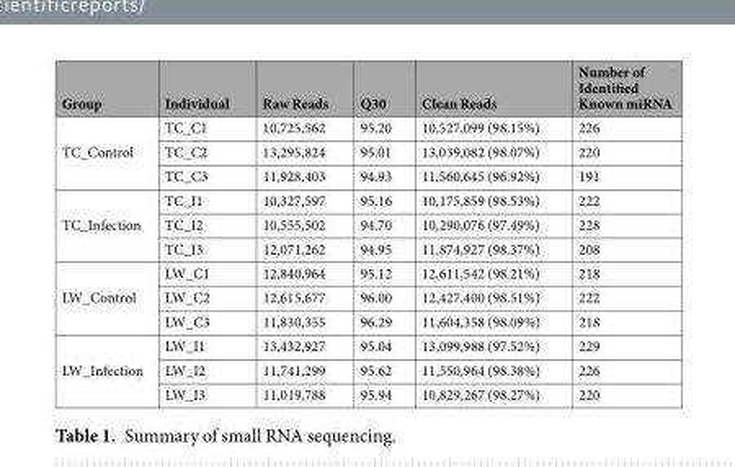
<table><thead><tr><td>Group</td><td>Individual</td><td>Raw Reads</td><td>Q30</td><td>Clean Reads</td><td>Number of Identified Known miRNA</td></tr></thead><tbody><tr><td rowspan="3">TC_Control</td><td>TC_C1</td><td>10,725,562</td><td>95.20</td><td>10,527,099 (98.15%)</td><td>226</td></tr><tr><td>TC_C2</td><td>13,295,824</td><td>95.01</td><td>13,039,082 (98.07%)</td><td>220</td></tr><tr><td>TC_C3</td><td>11,928,403</td><td>94.93</td><td>11,560,645 (96.92%)</td><td>191</td></tr><tr><td rowspan="3">TC_Infection</td><td>TC_I1</td><td>10,327,597</td><td>95.16</td><td>10,175,859 (98.53%)</td><td>222</td></tr><tr><td>TC_I2</td><td>10,555,502</td><td>94.70</td><td>10,290,076 (97.49%)</td><td>228</td></tr><tr><td>TC_I3</td><td>12,071,262</td><td>94.95</td><td>11,874,927 (98.37%)</td><td>208</td></tr><tr><td rowspan="3">LW_Control</td><td>LW_C1</td><td>12,840,964</td><td>95.12</td><td>12,611,542 (98.21%)</td><td>218</td></tr><tr><td>LW_C2</td><td>12,615,677</td><td>96.00</td><td>12,427,400 (98.51%)</td><td>222</td></tr><tr><td>LW_C3</td><td>11,830,355</td><td>96.29</td><td>11,604,358 (98.09%)</td><td>218</td></tr><tr><td rowspan="3">LW_Infection</td><td>LW_I1</td><td>13,432,927</td><td>95.04</td><td>13,099,988 (97.52%)</td><td>229</td></tr><tr><td>LW_I2</td><td>11,741,299</td><td>95.62</td><td>11,550,964 (98.38%)</td><td>226</td></tr><tr><td>LW_I3</td><td>11,019,788</td><td>95.94</td><td>10,829,267 (98.27%)</td><td>220</td></tr></tbody></table>